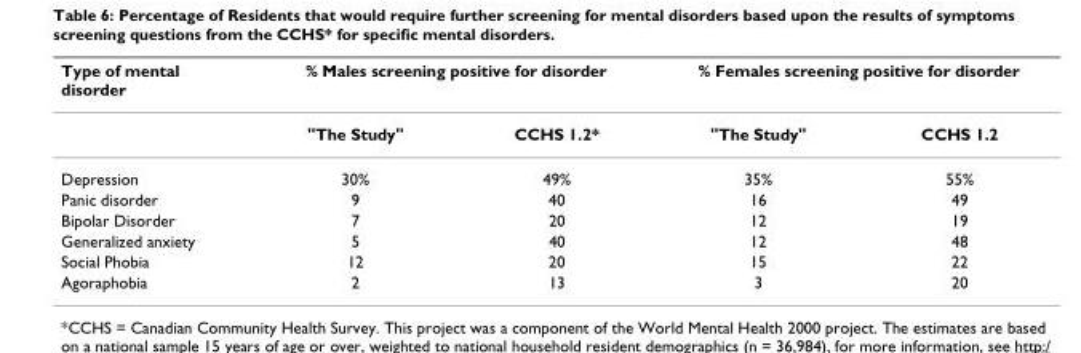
<table><thead><tr><td rowspan="2">Type of mental disorder</td><td colspan="2">% Males screening positive for disorder</td><td colspan="2">% Females screening positive for disorder</td></tr><tr><td>&quot;The Study&quot;</td><td>CCHS 1.2*</td><td>&quot;The Study&quot;</td><td>CCHS 1.2</td></tr></thead><tbody><tr><td>Depression</td><td>30%</td><td>49%</td><td>35%</td><td>55%</td></tr><tr><td>Panic disorder</td><td>9</td><td>40</td><td>16</td><td>49</td></tr><tr><td>Bipolar Disorder</td><td>7</td><td>20</td><td>12</td><td>19</td></tr><tr><td>Generalized anxiety</td><td>5</td><td>40</td><td>12</td><td>48</td></tr><tr><td>Social Phobia</td><td>12</td><td>20</td><td>15</td><td>22</td></tr><tr><td>Agoraphobia</td><td>2</td><td>13</td><td>3</td><td>20</td></tr></tbody></table>